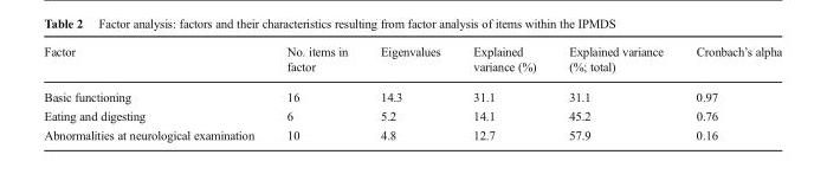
<table><thead><tr><td>Factor</td><td>No. items in factor</td><td>Eigenvalues</td><td>Explained variance (%)</td><td>Explained variance (%; total)</td><td>Cronbach’s alpha</td></tr></thead><tbody><tr><td>Basic functioning</td><td>16</td><td>14.3</td><td>31.1</td><td>31.1</td><td>0.97</td></tr><tr><td>Eating and digesting</td><td>6</td><td>5.2</td><td>14.1</td><td>45.2</td><td>0.76</td></tr><tr><td>Abnormalities at neurological examination</td><td>10</td><td>4.8</td><td>12.7</td><td>57.9</td><td>0.16</td></tr></tbody></table>